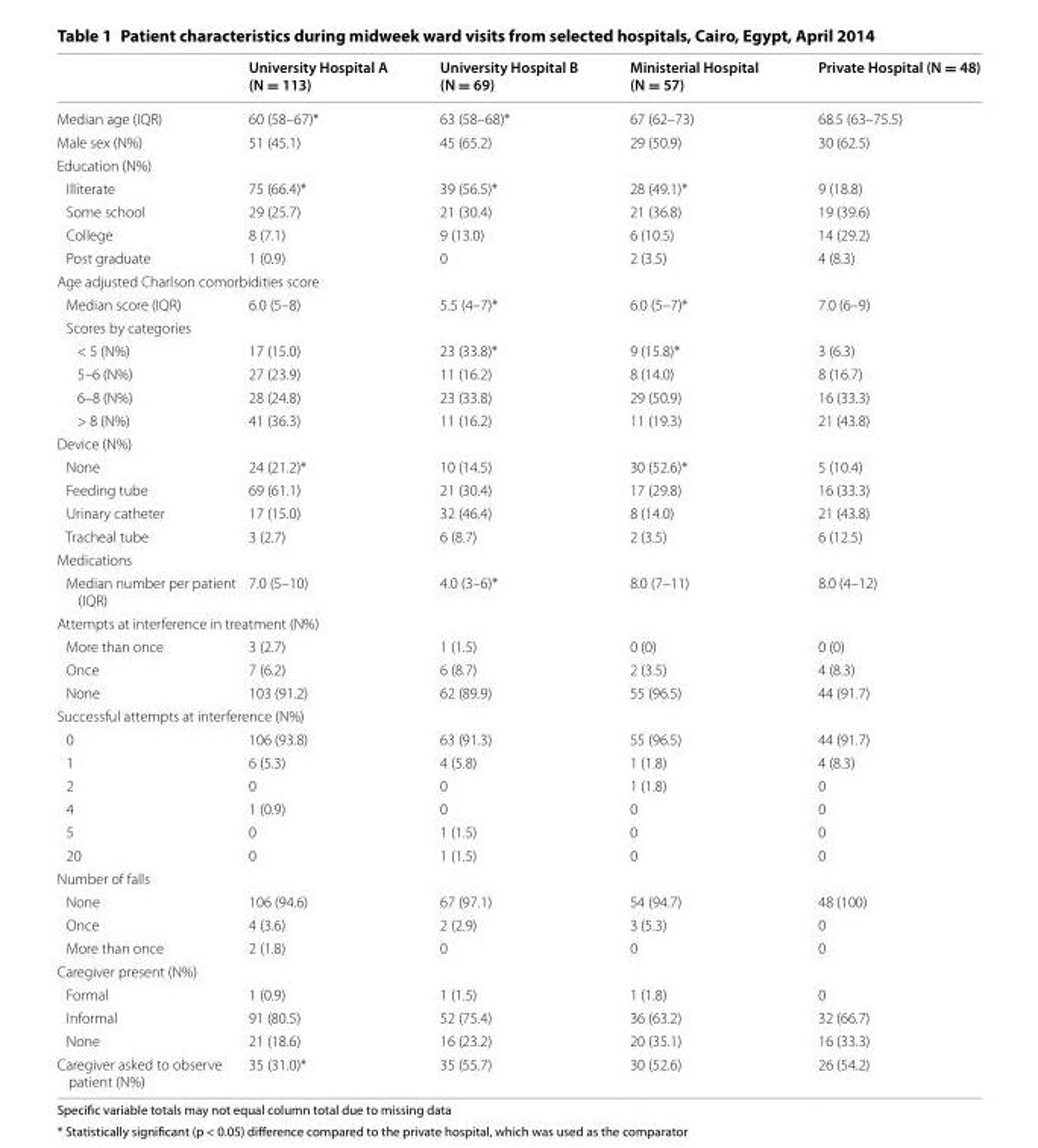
<table><thead><tr><td></td><td>University Hospital A (N = 113)</td><td>University Hospital B (N = 69)</td><td>Ministerial Hospital (N = 57)</td><td>Private Hospital (N = 48)</td></tr></thead><tbody><tr><td>Median age (IQR)</td><td>60 (58–67)*</td><td>63 (58–68)*</td><td>67 (62–73)</td><td>68.5 (63–75.5)</td></tr><tr><td>Male sex (N%)</td><td>51 (45.1)</td><td>45 (65.2)</td><td>29 (50.9)</td><td>30 (62.5)</td></tr><tr><td colspan="5">Education (N%)</td></tr><tr><td>Illiterate</td><td>75 (66.4)*</td><td>39 (56.5)*</td><td>28 (49.1)*</td><td>9 (18.8)</td></tr><tr><td>Some school</td><td>29 (25.7)</td><td>21 (30.4)</td><td>21 (36.8)</td><td>19 (39.6)</td></tr><tr><td>College</td><td>8 (7.1)</td><td>9 (13.0)</td><td>6 (10.5)</td><td>14 (29.2)</td></tr><tr><td>Post graduate</td><td>1 (0.9)</td><td>0</td><td>2 (3.5)</td><td>4 (8.3)</td></tr><tr><td colspan="5">Age adjusted Charlson comorbidities score</td></tr><tr><td>Median score (IQR)</td><td>6.0 (5–8)</td><td>5.5 (4–7)*</td><td>6.0 (5–7)*</td><td>7.0 (6–9)</td></tr><tr><td colspan="5">Scores by categories</td></tr><tr><td>&lt; 5 (N%)</td><td>17 (15.0)</td><td>23 (33.8)*</td><td>9 (15.8)*</td><td>3 (6.3)</td></tr><tr><td>5–6 (N%)</td><td>27 (23.9)</td><td>11 (16.2)</td><td>8 (14.0)</td><td>8 (16.7)</td></tr><tr><td>6–8 (N%)</td><td>28 (24.8)</td><td>23 (33.8)</td><td>29 (50.9)</td><td>16 (33.3)</td></tr><tr><td>&gt; 8 (N%)</td><td>41 (36.3)</td><td>11 (16.2)</td><td>11 (19.3)</td><td>21 (43.8)</td></tr><tr><td colspan="5">Device (N%)</td></tr><tr><td>None</td><td>24 (21.2)*</td><td>10 (14.5)</td><td>30 (52.6)*</td><td>5 (10.4)</td></tr><tr><td>Feeding tube</td><td>69 (61.1)</td><td>21 (30.4)</td><td>17 (29.8)</td><td>16 (33.3)</td></tr><tr><td>Urinary catheter</td><td>17 (15.0)</td><td>32 (46.4)</td><td>8 (14.0)</td><td>21 (43.8)</td></tr><tr><td>Tracheal tube</td><td>3 (2.7)</td><td>6 (8.7)</td><td>2 (3.5)</td><td>6 (12.5)</td></tr><tr><td colspan="5">Medications</td></tr><tr><td>Median number per patient (IQR)</td><td>7.0 (5–10)</td><td>4.0 (3–6)*</td><td>8.0 (7–11)</td><td>8.0 (4–12)</td></tr><tr><td colspan="5">Attempts at interference in treatment (N%)</td></tr><tr><td>More than once</td><td>3 (2.7)</td><td>1 (1.5)</td><td>0 (0)</td><td>0 (0)</td></tr><tr><td>Once</td><td>7 (6.2)</td><td>6 (8.7)</td><td>2 (3.5)</td><td>4 (8.3)</td></tr><tr><td>None</td><td>103 (91.2)</td><td>62 (89.9)</td><td>55 (96.5)</td><td>44 (91.7)</td></tr><tr><td colspan="5">Successful attempts at interference (N%)</td></tr><tr><td>0</td><td>106 (93.8)</td><td>63 (91.3)</td><td>55 (96.5)</td><td>44 (91.7)</td></tr><tr><td>1</td><td>6 (5.3)</td><td>4 (5.8)</td><td>1 (1.8)</td><td>4 (8.3)</td></tr><tr><td>2</td><td>0</td><td>0</td><td>1 (1.8)</td><td>0</td></tr><tr><td>4</td><td>1 (0.9)</td><td>0</td><td>0</td><td>0</td></tr><tr><td>5</td><td>0</td><td>1 (1.5)</td><td>0</td><td>0</td></tr><tr><td>20</td><td>0</td><td>1 (1.5)</td><td>0</td><td>0</td></tr><tr><td colspan="5">Number of falls</td></tr><tr><td>None</td><td>106 (94.6)</td><td>67 (97.1)</td><td>54 (94.7)</td><td>48 (100)</td></tr><tr><td>Once</td><td>4 (3.6)</td><td>2 (2.9)</td><td>3 (5.3)</td><td>0</td></tr><tr><td>More than once</td><td>2 (1.8)</td><td>0</td><td>0</td><td>0</td></tr><tr><td colspan="5">Caregiver present (N%)</td></tr><tr><td>Formal</td><td>1 (0.9)</td><td>1 (1.5)</td><td>1 (1.8)</td><td>0</td></tr><tr><td>Informal</td><td>91 (80.5)</td><td>52 (75.4)</td><td>36 (63.2)</td><td>32 (66.7)</td></tr><tr><td>None</td><td>21 (18.6)</td><td>16 (23.2)</td><td>20 (35.1)</td><td>16 (33.3)</td></tr><tr><td>Caregiver asked to observe patient (N%)</td><td>35 (31.0)*</td><td>35 (55.7)</td><td>30 (52.6)</td><td>26 (54.2)</td></tr></tbody></table>